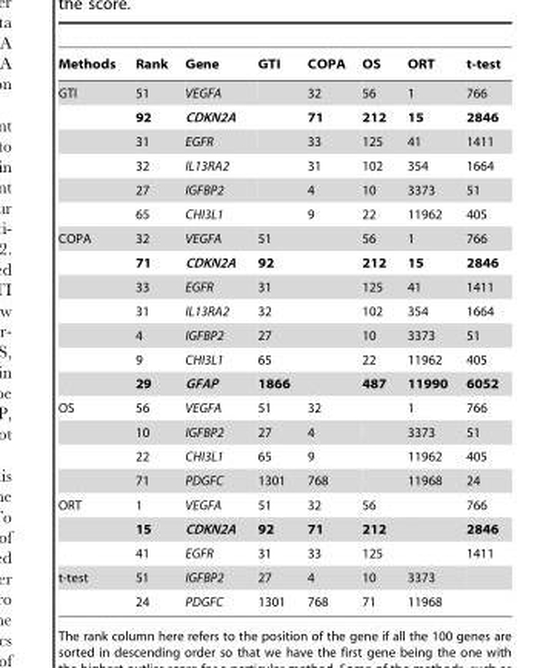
<table><thead><tr><td>Methods</td><td>Rank</td><td>Gene</td><td>GTI</td><td>COPA</td><td>OS</td><td>ORT</td><td>t-test</td></tr></thead><tbody><tr><td rowspan="6">GTI</td><td>51</td><td>VEGFA</td><td></td><td>32</td><td>56</td><td>1</td><td>766</td></tr><tr><td>92</td><td>CDKN2A</td><td></td><td>71</td><td>212</td><td>15</td><td>2846</td></tr><tr><td>31</td><td>EGFR</td><td></td><td>33</td><td>125</td><td>41</td><td>1411</td></tr><tr><td>32</td><td>IL13RA2</td><td></td><td>31</td><td>102</td><td>354</td><td>1664</td></tr><tr><td>27</td><td>IGFBP2</td><td></td><td>4</td><td>10</td><td>3373</td><td>51</td></tr><tr><td>65</td><td>CHI3L1</td><td></td><td>9</td><td>22</td><td>11962</td><td>405</td></tr><tr><td rowspan="7">COPA</td><td>32</td><td>VEGFA</td><td>51</td><td></td><td>56</td><td>1</td><td>766</td></tr><tr><td>71</td><td>CDKN2A</td><td>92</td><td></td><td>212</td><td>15</td><td>2846</td></tr><tr><td>33</td><td>EGFR</td><td>31</td><td></td><td>125</td><td>41</td><td>1411</td></tr><tr><td>31</td><td>IL13RA2</td><td>32</td><td></td><td>102</td><td>354</td><td>1664</td></tr><tr><td>4</td><td>IGFBP2</td><td>27</td><td></td><td>10</td><td>3373</td><td>51</td></tr><tr><td>9</td><td>CHI3L1</td><td>65</td><td></td><td>22</td><td>11962</td><td>405</td></tr><tr><td>29</td><td>GFAP</td><td>1866</td><td></td><td>487</td><td>11990</td><td>6052</td></tr><tr><td rowspan="4">OS</td><td>56</td><td>VEGFA</td><td>51</td><td>32</td><td></td><td>1</td><td>766</td></tr><tr><td>10</td><td>IGFBP2</td><td>27</td><td>4</td><td></td><td>3373</td><td>51</td></tr><tr><td>22</td><td>CHI3L1</td><td>65</td><td>9</td><td></td><td>11962</td><td>405</td></tr><tr><td>71</td><td>PDGFC</td><td>1301</td><td>768</td><td></td><td>11968</td><td>24</td></tr><tr><td rowspan="3">ORT</td><td>1</td><td>VEGFA</td><td>51</td><td>32</td><td>56</td><td></td><td>766</td></tr><tr><td>15</td><td>CDKN2A</td><td>92</td><td>71</td><td>212</td><td></td><td>2846</td></tr><tr><td>41</td><td>EGFR</td><td>31</td><td>33</td><td>125</td><td></td><td>1411</td></tr><tr><td rowspan="2">t-test</td><td>51</td><td>IGFBP2</td><td>27</td><td>4</td><td>10</td><td>3373</td><td></td></tr><tr><td>24</td><td>PDGFC</td><td>1301</td><td>768</td><td>71</td><td>11968</td><td></td></tr></tbody></table>